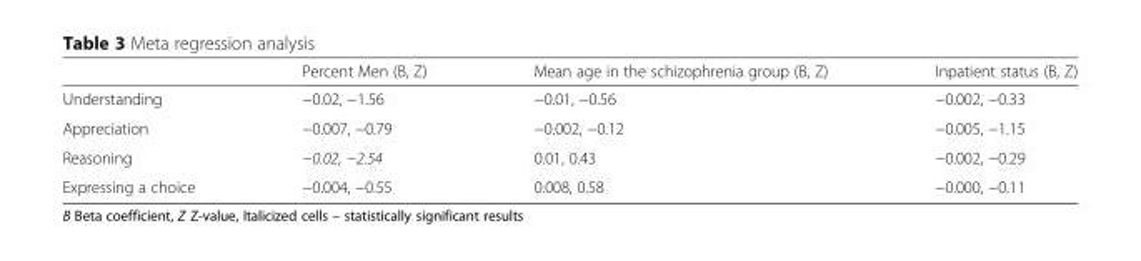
<table><thead><tr><td></td><td>Percent Men (B, Z)</td><td>Mean age in the schizophrenia group (B, Z)</td><td>Inpatient status (B, Z)</td></tr></thead><tbody><tr><td>Understanding</td><td>−0.02, −1.56</td><td>−0.01, −0.56</td><td>−0.002, −0.33</td></tr><tr><td>Appreciation</td><td>−0.007, −0.79</td><td>−0.002, −0.12</td><td>−0.005, −1.15</td></tr><tr><td>Reasoning</td><td>−0.02, −2.54</td><td>0.01, 0.43</td><td>−0.002, −0.29</td></tr><tr><td>Expressing a choice</td><td>−0.004, −0.55</td><td>0.008, 0.58</td><td>−0.000, −0.11</td></tr></tbody></table>